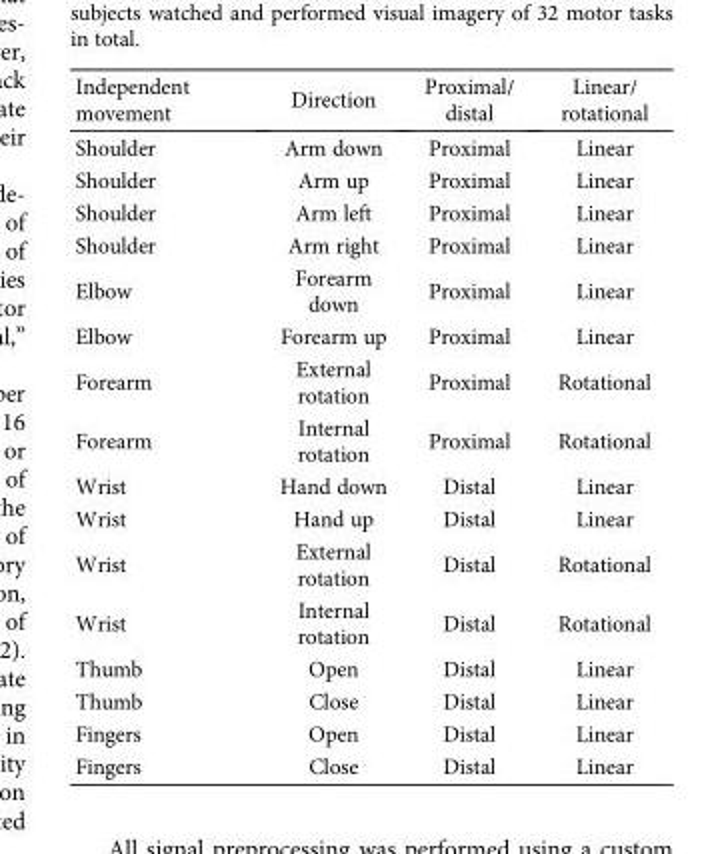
<table><thead><tr><td>Independent movement</td><td>Direction</td><td>Proximal/ distal</td><td>Linear/ rotational</td></tr></thead><tbody><tr><td>Shoulder</td><td>Arm down</td><td>Proximal</td><td>Linear</td></tr><tr><td>Shoulder</td><td>Arm up</td><td>Proximal</td><td>Linear</td></tr><tr><td>Shoulder</td><td>Arm left</td><td>Proximal</td><td>Linear</td></tr><tr><td>Shoulder</td><td>Arm right</td><td>Proximal</td><td>Linear</td></tr><tr><td>Elbow</td><td>Forearm down</td><td>Proximal</td><td>Linear</td></tr><tr><td>Elbow</td><td>Forearm up</td><td>Proximal</td><td>Linear</td></tr><tr><td>Forearm</td><td>External rotation</td><td>Proximal</td><td>Rotational</td></tr><tr><td>Forearm</td><td>Internal rotation</td><td>Proximal</td><td>Rotational</td></tr><tr><td>Wrist</td><td>Hand down</td><td>Distal</td><td>Linear</td></tr><tr><td>Wrist</td><td>Hand up</td><td>Distal</td><td>Linear</td></tr><tr><td>Wrist</td><td>External rotation</td><td>Distal</td><td>Rotational</td></tr><tr><td>Wrist</td><td>Internal rotation</td><td>Distal</td><td>Rotational</td></tr><tr><td>Thumb</td><td>Open</td><td>Distal</td><td>Linear</td></tr><tr><td>Thumb</td><td>Close</td><td>Distal</td><td>Linear</td></tr><tr><td>Fingers</td><td>Open</td><td>Distal</td><td>Linear</td></tr><tr><td>Fingers</td><td>Close</td><td>Distal</td><td>Linear</td></tr></tbody></table>